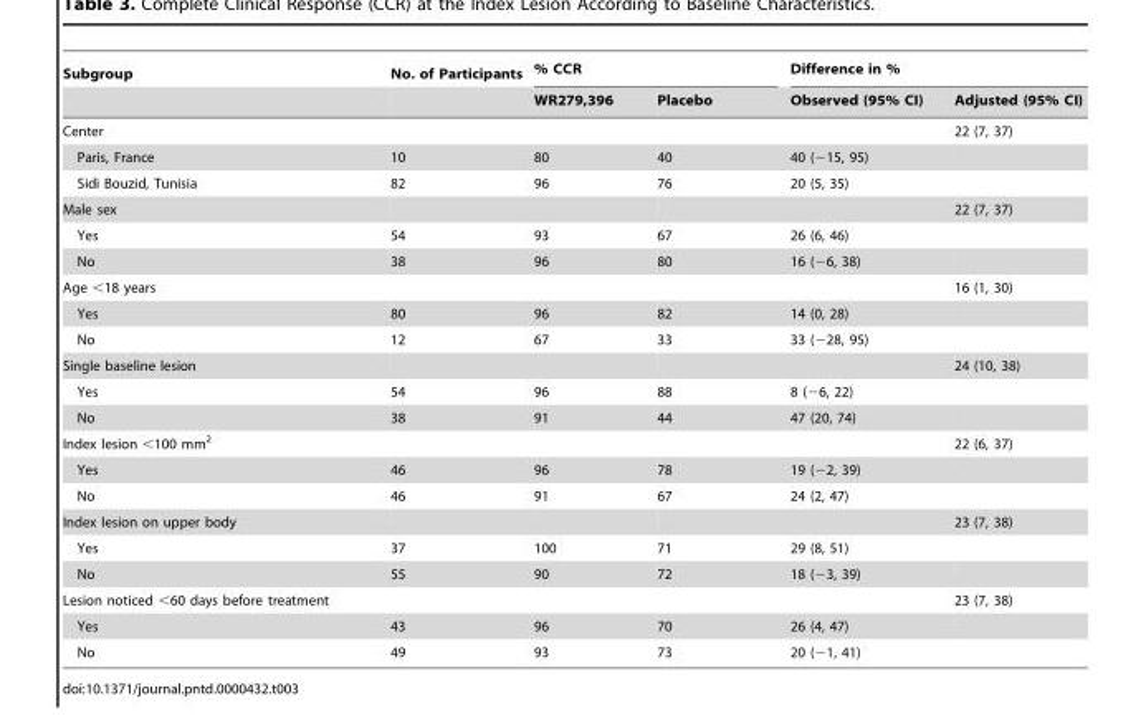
<table><thead><tr><td rowspan="2">Subgroup</td><td rowspan="2">No. of Participants</td><td colspan="2">% CCR</td><td colspan="2">Difference in %</td></tr><tr><td>WR279,396</td><td>Placebo</td><td>Observed (95% CI)</td><td>Adjusted (95% CI)</td></tr></thead><tbody><tr><td>Center</td><td></td><td></td><td></td><td></td><td>22 (7, 37)</td></tr><tr><td>Paris, France</td><td>10</td><td>80</td><td>40</td><td>40 (−15, 95)</td><td></td></tr><tr><td>Sidi Bouzid, Tunisia</td><td>82</td><td>96</td><td>76</td><td>20 (5, 35)</td><td></td></tr><tr><td>Male sex</td><td></td><td></td><td></td><td></td><td>22 (7, 37)</td></tr><tr><td>Yes</td><td>54</td><td>93</td><td>67</td><td>26 (6, 46)</td><td></td></tr><tr><td>No</td><td>38</td><td>96</td><td>80</td><td>16 (−6, 38)</td><td></td></tr><tr><td>Age &lt;18 years</td><td></td><td></td><td></td><td></td><td>16 (1, 30)</td></tr><tr><td>Yes</td><td>80</td><td>96</td><td>82</td><td>14 (0, 28)</td><td></td></tr><tr><td>No</td><td>12</td><td>67</td><td>33</td><td>33 (−28, 95)</td><td></td></tr><tr><td>Single baseline lesion</td><td></td><td></td><td></td><td></td><td>24 (10, 38)</td></tr><tr><td>Yes</td><td>54</td><td>96</td><td>88</td><td>8 (−6, 22)</td><td></td></tr><tr><td>No</td><td>38</td><td>91</td><td>44</td><td>47 (20, 74)</td><td></td></tr><tr><td>Index lesion &lt;100 mm<sup>2</sup></td><td></td><td></td><td></td><td></td><td>22 (6, 37)</td></tr><tr><td>Yes</td><td>46</td><td>96</td><td>78</td><td>19 (−2, 39)</td><td></td></tr><tr><td>No</td><td>46</td><td>91</td><td>67</td><td>24 (2, 47)</td><td></td></tr><tr><td>Index lesion on upper body</td><td></td><td></td><td></td><td></td><td>23 (7, 38)</td></tr><tr><td>Yes</td><td>37</td><td>100</td><td>71</td><td>29 (8, 51)</td><td></td></tr><tr><td>No</td><td>55</td><td>90</td><td>72</td><td>18 (−3, 39)</td><td></td></tr><tr><td>Lesion noticed &lt;60 days before treatment</td><td></td><td></td><td></td><td></td><td>23 (7, 38)</td></tr><tr><td>Yes</td><td>43</td><td>96</td><td>70</td><td>26 (4, 47)</td><td></td></tr><tr><td>No</td><td>49</td><td>93</td><td>73</td><td>20 (−1, 41)</td><td></td></tr></tbody></table>